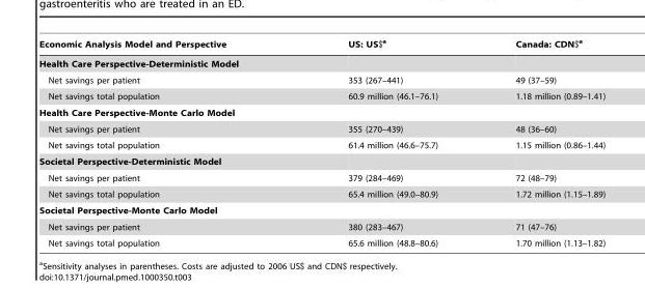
<table><thead><tr><td>Economic Analysis Model and Perspective</td><td>US: US$<sup>a</sup></td><td>Canada: CDN$<sup>a</sup></td></tr></thead><tbody><tr><td colspan="3">Health Care Perspective-Deterministic Model</td></tr><tr><td>Net savings per patient</td><td>353 (267–441)</td><td>49 (37–59)</td></tr><tr><td>Net savings total population</td><td>60.9 million (46.1–76.1)</td><td>1.18 million (0.89–1.41)</td></tr><tr><td colspan="3">Health Care Perspective-Monte Carlo Model</td></tr><tr><td>Net savings per patient</td><td>355 (270–439)</td><td>48 (36–60)</td></tr><tr><td>Net savings total population</td><td>61.4 million (46.6–75.7)</td><td>1.15 million (0.86–1.44)</td></tr><tr><td colspan="3">Societal Perspective-Deterministic Model</td></tr><tr><td>Net savings per patient</td><td>379 (284–469)</td><td>72 (48–79)</td></tr><tr><td>Net savings total population</td><td>65.4 million (49.0–80.9)</td><td>1.72 million (1.15–1.89)</td></tr><tr><td colspan="3">Societal Perspective-Monte Carlo Model</td></tr><tr><td>Net savings per patient</td><td>380 (283–467)</td><td>71 (47–76)</td></tr><tr><td>Net savings total population</td><td>65.6 million (48.8–80.6)</td><td>1.70 million (1.13–1.82)</td></tr></tbody></table>